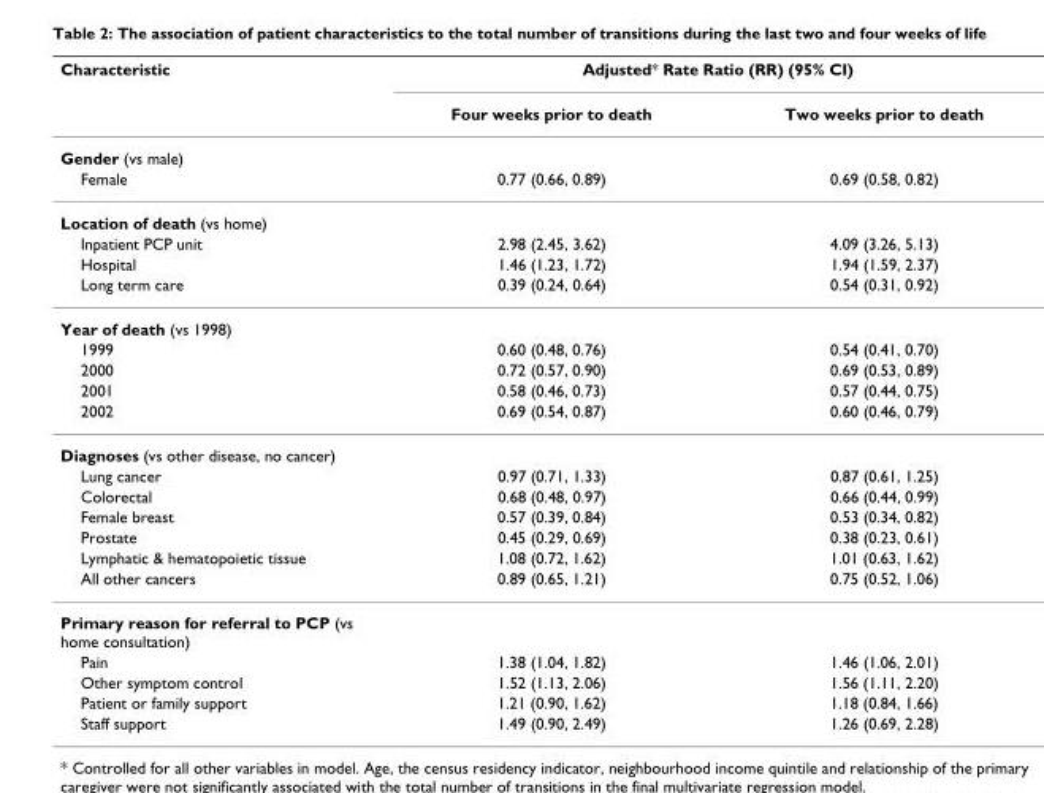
<table><thead><tr><td rowspan="2">Characteristic</td><td colspan="2">Adjusted* Rate Ratio (RR) (95% CI)</td></tr><tr><td>Four weeks prior to death</td><td>Two weeks prior to death</td></tr></thead><tbody><tr><td colspan="3">Gender (vs male)</td></tr><tr><td>Female</td><td>0.77 (0.66, 0.89)</td><td>0.69 (0.58, 0.82)</td></tr><tr><td colspan="3">Location of death (vs home)</td></tr><tr><td>Inpatient PCP unit</td><td>2.98 (2.45, 3.62)</td><td>4.09 (3.26, 5.13)</td></tr><tr><td>Hospital</td><td>1.46 (1.23, 1.72)</td><td>1.94 (1.59, 2.37)</td></tr><tr><td>Long term care</td><td>0.39 (0.24, 0.64)</td><td>0.54 (0.31, 0.92)</td></tr><tr><td colspan="3">Year of death (vs 1998)</td></tr><tr><td>1999</td><td>0.60 (0.48, 0.76)</td><td>0.54 (0.41, 0.70)</td></tr><tr><td>2000</td><td>0.72 (0.57, 0.90)</td><td>0.69 (0.53, 0.89)</td></tr><tr><td>2001</td><td>0.58 (0.46, 0.73)</td><td>0.57 (0.44, 0.75)</td></tr><tr><td>2002</td><td>0.69 (0.54, 0.87)</td><td>0.60 (0.46, 0.79)</td></tr><tr><td colspan="3">Diagnoses (vs other disease, no cancer)</td></tr><tr><td>Lung cancer</td><td>0.97 (0.71, 1.33)</td><td>0.87 (0.61, 1.25)</td></tr><tr><td>Colorectal</td><td>0.68 (0.48, 0.97)</td><td>0.66 (0.44, 0.99)</td></tr><tr><td>Female breast</td><td>0.57 (0.39, 0.84)</td><td>0.53 (0.34, 0.82)</td></tr><tr><td>Prostate</td><td>0.45 (0.29, 0.69)</td><td>0.38 (0.23, 0.61)</td></tr><tr><td>Lymphatic &amp; hematopoietic tissue</td><td>1.08 (0.72, 1.62)</td><td>1.01 (0.63, 1.62)</td></tr><tr><td>All other cancers</td><td>0.89 (0.65, 1.21)</td><td>0.75 (0.52, 1.06)</td></tr><tr><td colspan="3">Primary reason for referral to PCP (vs home consultation)</td></tr><tr><td>Pain</td><td>1.38 (1.04, 1.82)</td><td>1.46 (1.06, 2.01)</td></tr><tr><td>Other symptom control</td><td>1.52 (1.13, 2.06)</td><td>1.56 (1.11, 2.20)</td></tr><tr><td>Patient or family support</td><td>1.21 (0.90, 1.62)</td><td>1.18 (0.84, 1.66)</td></tr><tr><td>Staff support</td><td>1.49 (0.90, 2.49)</td><td>1.26 (0.69, 2.28)</td></tr></tbody></table>